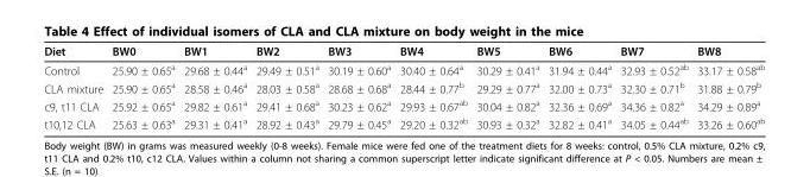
<table><thead><tr><td>Diet</td><td>BW0</td><td>BW1</td><td>BW2</td><td>BW3</td><td>BW4</td><td>BW5</td><td>BW6</td><td>BW7</td><td>BW8</td></tr></thead><tbody><tr><td>Control</td><td>25.90 ± 0.65<sup>a</sup></td><td>29.68 ± 0.44<sup>a</sup></td><td>29.49 ± 0.51<sup>a</sup></td><td>30.19 ± 0.60<sup>a</sup></td><td>30.40 ± 0.64<sup>a</sup></td><td>30.29 ± 0.41<sup>a</sup></td><td>31.94 ± 0.44<sup>a</sup></td><td>32.93 ± 0.52<sup>ab</sup></td><td>33.17 ± 0.58<sup>ab</sup></td></tr><tr><td>CLA mixture</td><td>25.90 ± 0.65<sup>a</sup></td><td>28.58 ± 0.46<sup>a</sup></td><td>28.03 ± 0.58<sup>a</sup></td><td>28.68 ± 0.68<sup>a</sup></td><td>28.44 ± 0.77<sup>b</sup></td><td>29.29 ± 0.77<sup>a</sup></td><td>32.00 ± 0.73<sup>a</sup></td><td>32.30 ± 0.71<sup>b</sup></td><td>31.88 ± 0.79<sup>b</sup></td></tr><tr><td>c9, t11 CLA</td><td>25.92 ± 0.65<sup>a</sup></td><td>29.82 ± 0.61<sup>a</sup></td><td>29.41 ± 0.68<sup>a</sup></td><td>30.23 ± 0.62<sup>a</sup></td><td>29.93 ± 0.67<sup>ab</sup></td><td>30.04 ± 0.82<sup>a</sup></td><td>32.36 ± 0.69<sup>a</sup></td><td>34.36 ± 0.82<sup>a</sup></td><td>34.29 ± 0.89<sup>a</sup></td></tr><tr><td>t10,12 CLA</td><td>25.63 ± 0.63<sup>a</sup></td><td>29.31 ± 0.41<sup>a</sup></td><td>28.92 ± 0.43<sup>a</sup></td><td>29.79 ± 0.45<sup>a</sup></td><td>29.20 ± 0.32<sup>ab</sup></td><td>30.93 ± 0.32<sup>a</sup></td><td>32.82 ± 0.41<sup>a</sup></td><td>34.05 ± 0.44<sup>ab</sup></td><td>33.26 ± 0.60<sup>ab</sup></td></tr></tbody></table>